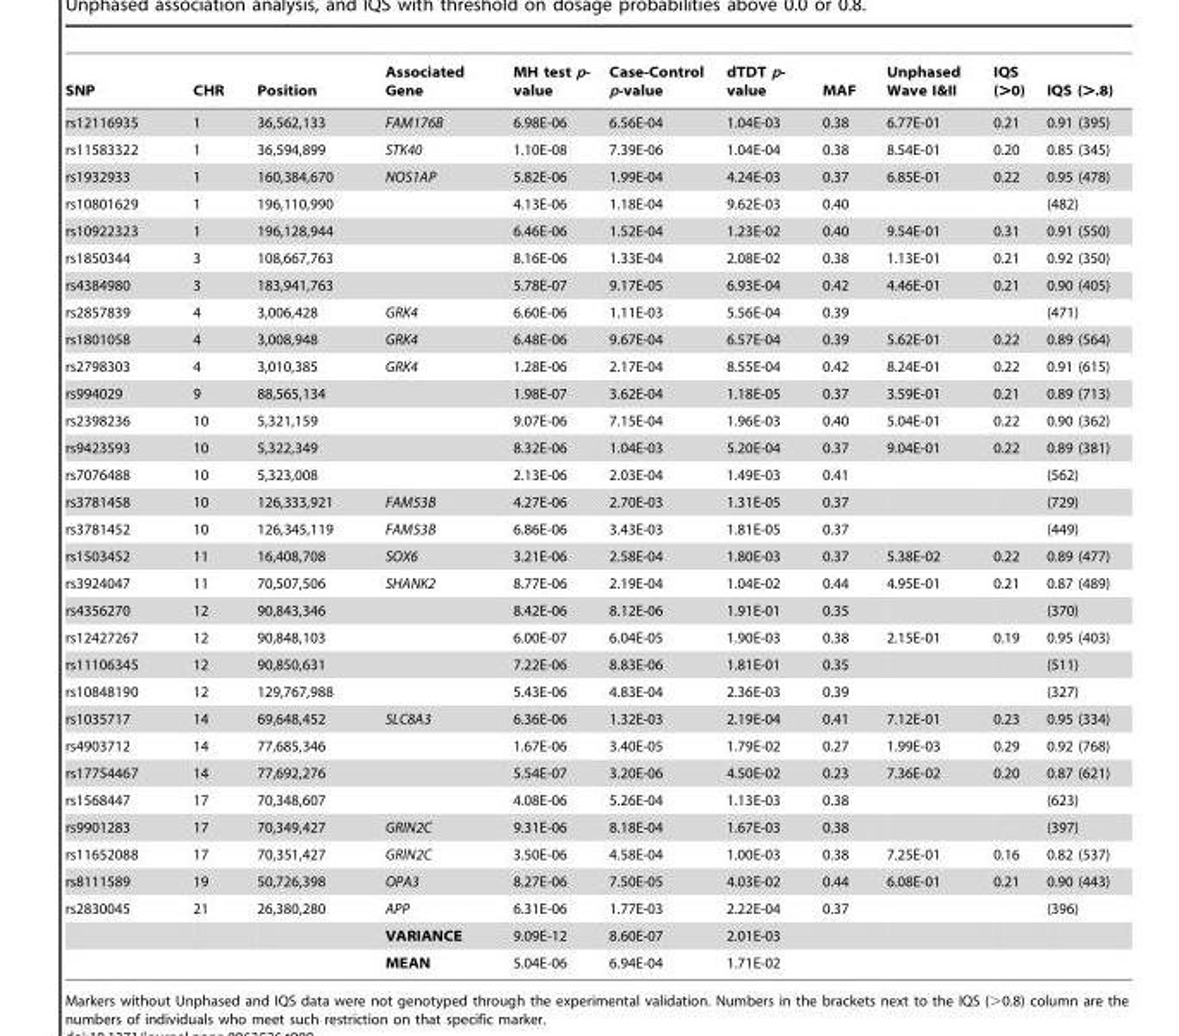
<table><thead><tr><td>SNP</td><td>CHR</td><td>Position</td><td>Associated Gene</td><td>MH test p- value</td><td>Case-Control p-value</td><td>dTDT p- value</td><td>MAF</td><td>Unphased Wave I&amp;II</td><td>IQS (&gt;0)</td><td>IQS (&gt;.8)</td></tr></thead><tbody><tr><td>rs12116935</td><td>1</td><td>36,562,133</td><td>FAM176B</td><td>6.98E-06</td><td>6.56E-04</td><td>1.04E-03</td><td>0.38</td><td>6.77E-01</td><td>0.21</td><td>0.91 (395)</td></tr><tr><td>rs11583322</td><td>1</td><td>36,594,899</td><td>STK40</td><td>1.10E-08</td><td>7.39E-06</td><td>1.04E-04</td><td>0.38</td><td>8.54E-01</td><td>0.20</td><td>0.85 (345)</td></tr><tr><td>rs1932933</td><td>1</td><td>160,384,670</td><td>NOS1AP</td><td>5.82E-06</td><td>1.99E-04</td><td>4.24E-03</td><td>0.37</td><td>6.85E-01</td><td>0.22</td><td>0.95 (478)</td></tr><tr><td>rs10801629</td><td>1</td><td>196,110,990</td><td></td><td>4.13E-06</td><td>1.18E-04</td><td>9.62E-03</td><td>0.40</td><td></td><td></td><td>(482)</td></tr><tr><td>rs10922323</td><td>1</td><td>196,128,944</td><td></td><td>6.46E-06</td><td>1.52E-04</td><td>1.23E-02</td><td>0.40</td><td>9.54E-01</td><td>0.31</td><td>0.91 (550)</td></tr><tr><td>rs1850344</td><td>3</td><td>108,667,763</td><td></td><td>8.16E-06</td><td>1.33E-04</td><td>2.08E-02</td><td>0.38</td><td>1.13E-01</td><td>0.21</td><td>0.92 (350)</td></tr><tr><td>rs4384980</td><td>3</td><td>183,941,763</td><td></td><td>5.78E-07</td><td>9.17E-05</td><td>6.93E-04</td><td>0.42</td><td>4.46E-01</td><td>0.21</td><td>0.90 (405)</td></tr><tr><td>rs2857839</td><td>4</td><td>3,006,428</td><td>GRK4</td><td>6.60E-06</td><td>1.11E-03</td><td>5.56E-04</td><td>0.39</td><td></td><td></td><td>(471)</td></tr><tr><td>rs1801058</td><td>4</td><td>3,008,948</td><td>GRK4</td><td>6.48E-06</td><td>9.67E-04</td><td>6.57E-04</td><td>0.39</td><td>5.62E-01</td><td>0.22</td><td>0.89 (564)</td></tr><tr><td>rs2798303</td><td>4</td><td>3,010,385</td><td>GRK4</td><td>1.28E-06</td><td>2.17E-04</td><td>8.55E-04</td><td>0.42</td><td>8.24E-01</td><td>0.22</td><td>0.91 (615)</td></tr><tr><td>rs994029</td><td>9</td><td>88,565,134</td><td></td><td>1.98E-07</td><td>3.62E-04</td><td>1.18E-05</td><td>0.37</td><td>3.59E-01</td><td>0.21</td><td>0.89 (713)</td></tr><tr><td>rs2398236</td><td>10</td><td>5,321,159</td><td></td><td>9.07E-06</td><td>7.15E-04</td><td>1.96E-03</td><td>0.40</td><td>5.04E-01</td><td>0.22</td><td>0.90 (362)</td></tr><tr><td>rs9423593</td><td>10</td><td>5,322,349</td><td></td><td>8.32E-06</td><td>1.04E-03</td><td>5.20E-04</td><td>0.37</td><td>9.04E-01</td><td>0.22</td><td>0.89 (381)</td></tr><tr><td>rs7076488</td><td>10</td><td>5,323,008</td><td></td><td>2.13E-06</td><td>2.03E-04</td><td>1.49E-03</td><td>0.41</td><td></td><td></td><td>(562)</td></tr><tr><td>rs3781458</td><td>10</td><td>126,333,921</td><td>FAM53B</td><td>4.27E-06</td><td>2.70E-03</td><td>1.31E-05</td><td>0.37</td><td></td><td></td><td>(729)</td></tr><tr><td>rs3781452</td><td>10</td><td>126,345,119</td><td>FAM53B</td><td>6.86E-06</td><td>3.43E-03</td><td>1.81E-05</td><td>0.37</td><td></td><td></td><td>(449)</td></tr><tr><td>rs1503452</td><td>11</td><td>16,408,708</td><td>SOX6</td><td>3.21E-06</td><td>2.58E-04</td><td>1.80E-03</td><td>0.37</td><td>5.38E-02</td><td>0.22</td><td>0.89 (477)</td></tr><tr><td>rs3924047</td><td>11</td><td>70,507,506</td><td>SHANK2</td><td>8.77E-06</td><td>2.19E-04</td><td>1.04E-02</td><td>0.44</td><td>4.95E-01</td><td>0.21</td><td>0.87 (489)</td></tr><tr><td>rs4356270</td><td>12</td><td>90,843,346</td><td></td><td>8.42E-06</td><td>8.12E-06</td><td>1.91E-01</td><td>0.35</td><td></td><td></td><td>(370)</td></tr><tr><td>rs12427267</td><td>12</td><td>90,848,103</td><td></td><td>6.00E-07</td><td>6.04E-05</td><td>1.90E-03</td><td>0.38</td><td>2.15E-01</td><td>0.19</td><td>0.95 (403)</td></tr><tr><td>rs11106345</td><td>12</td><td>90,850,631</td><td></td><td>7.22E-06</td><td>8.83E-06</td><td>1.81E-01</td><td>0.35</td><td></td><td></td><td>(511)</td></tr><tr><td>rs10848190</td><td>12</td><td>129,767,988</td><td></td><td>5.43E-06</td><td>4.83E-04</td><td>2.36E-03</td><td>0.39</td><td></td><td></td><td>(327)</td></tr><tr><td>rs1035717</td><td>14</td><td>69,648,452</td><td>SLC8A3</td><td>6.36E-06</td><td>1.32E-03</td><td>2.19E-04</td><td>0.41</td><td>7.12E-01</td><td>0.23</td><td>0.95 (334)</td></tr><tr><td>rs4903712</td><td>14</td><td>77,685,346</td><td></td><td>1.67E-06</td><td>3.40E-05</td><td>1.79E-02</td><td>0.27</td><td>1.99E-03</td><td>0.29</td><td>0.92 (768)</td></tr><tr><td>rs17754467</td><td>14</td><td>77,692,276</td><td></td><td>5.54E-07</td><td>3.20E-06</td><td>4.50E-02</td><td>0.23</td><td>7.36E-02</td><td>0.20</td><td>0.87 (621)</td></tr><tr><td>rs1568447</td><td>17</td><td>70,348,607</td><td></td><td>4.08E-06</td><td>5.26E-04</td><td>1.13E-03</td><td>0.38</td><td></td><td></td><td>(623)</td></tr><tr><td>rs9901283</td><td>17</td><td>70,349,427</td><td>GRIN2C</td><td>9.31E-06</td><td>8.18E-04</td><td>1.67E-03</td><td>0.38</td><td></td><td></td><td>(397)</td></tr><tr><td>rs11652088</td><td>17</td><td>70,351,427</td><td>GRIN2C</td><td>3.50E-06</td><td>4.58E-04</td><td>1.00E-03</td><td>0.38</td><td>7.25E-01</td><td>0.16</td><td>0.82 (537)</td></tr><tr><td>rs8111589</td><td>19</td><td>50,726,398</td><td>OPA3</td><td>8.27E-06</td><td>7.50E-05</td><td>4.03E-02</td><td>0.44</td><td>6.08E-01</td><td>0.21</td><td>0.90 (443)</td></tr><tr><td rowspan="3">rs2830045</td><td>21</td><td>26,380,280</td><td>APP</td><td>6.31E-06</td><td>1.77E-03</td><td>2.22E-04</td><td>0.37</td><td></td><td></td><td>(396)</td></tr><tr><td></td><td></td><td>VARIANCE</td><td>9.09E-12</td><td>8.60E-07</td><td>2.01E-03</td><td></td><td></td><td></td><td></td></tr><tr><td></td><td></td><td>MEAN</td><td>5.04E-06</td><td>6.94E-04</td><td>1.71E-02</td><td></td><td></td><td></td><td></td></tr></tbody></table>